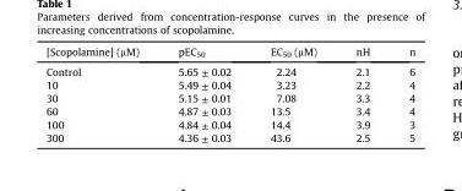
<table><thead><tr><td>[Scopolamine] (μM)</td><td>pEC<sub>50</sub></td><td>EC<sub>50</sub> (μM)</td><td>nH</td><td>n</td></tr></thead><tbody><tr><td>Control</td><td>5.65 ± 0.02</td><td>2.24</td><td>2.1</td><td>6</td></tr><tr><td>10</td><td>5.49 ± 0.04</td><td>3.23</td><td>2.2</td><td>4</td></tr><tr><td>30</td><td>5.15 ± 0.01</td><td>7.08</td><td>3.3</td><td>4</td></tr><tr><td>60</td><td>4.87 ± 0.03</td><td>13.5</td><td>3.4</td><td>4</td></tr><tr><td>100</td><td>4.84 ± 0.04</td><td>14.4</td><td>3.9</td><td>3</td></tr><tr><td>300</td><td>4.36 ± 0.03</td><td>43.6</td><td>2.5</td><td>5</td></tr></tbody></table>